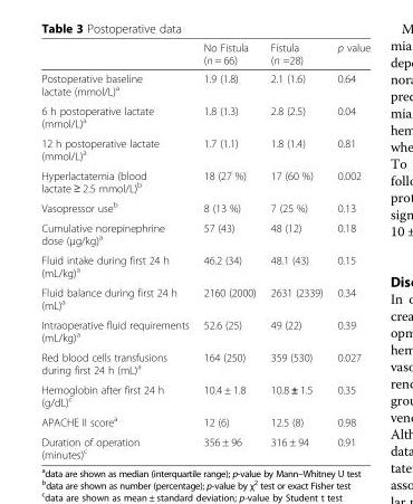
<table><thead><tr><td></td><td>No Fistula (n = 66)</td><td>Fistula (n =28)</td><td>p value</td></tr></thead><tbody><tr><td>Postoperative baseline lactate (mmol/L)<sup>a</sup></td><td>1.9 (1.8)</td><td>2.1 (1.6)</td><td>0.64</td></tr><tr><td>6 h postoperative lactate (mmol/L)<sup>a</sup></td><td>1.8 (1.3)</td><td>2.8 (2.5)</td><td>0.04</td></tr><tr><td>12 h postoperative lactate (mmol/L)<sup>a</sup></td><td>1.7 (1.1)</td><td>1.8 (1.4)</td><td>0.81</td></tr><tr><td>Hyperlactatemia (blood lactate ≥ 2.5 mmol/L)<sup>b</sup></td><td>18 (27 %)</td><td>17 (60 %)</td><td>0.002</td></tr><tr><td>Vasopressor use<sup>b</sup></td><td>8 (13 %)</td><td>7 (25 %)</td><td>0.13</td></tr><tr><td>Cumulative norepinephrine dose (μg/kg)<sup>a</sup></td><td>57 (43)</td><td>48 (12)</td><td>0.18</td></tr><tr><td>Fluid intake during first 24 h (mL/kg)<sup>a</sup></td><td>46.2 (34)</td><td>48.1 (43)</td><td>0.15</td></tr><tr><td>Fluid balance during first 24 h (mL)<sup>a</sup></td><td>2160 (2000)</td><td>2631 (2339)</td><td>0.34</td></tr><tr><td>Intraoperative fluid requirements (mL/kg)<sup>a</sup></td><td>52.6 (25)</td><td>49 (22)</td><td>0.39</td></tr><tr><td>Red blood cells transfusions during first 24 h (mL)<sup>a</sup></td><td>164 (250)</td><td>359 (530)</td><td>0.027</td></tr><tr><td>Hemoglobin after first 24 h (g/dL)<sup>c</sup></td><td>10.4 ± 1.8</td><td>10.8 ± 1.5</td><td>0.35</td></tr><tr><td>APACHE II score<sup>a</sup></td><td>12 (6)</td><td>12.5 (8)</td><td>0.98</td></tr><tr><td>Duration of operation (minutes)<sup>c</sup></td><td>356 ± 96</td><td>316 ± 94</td><td>0.91</td></tr></tbody></table>